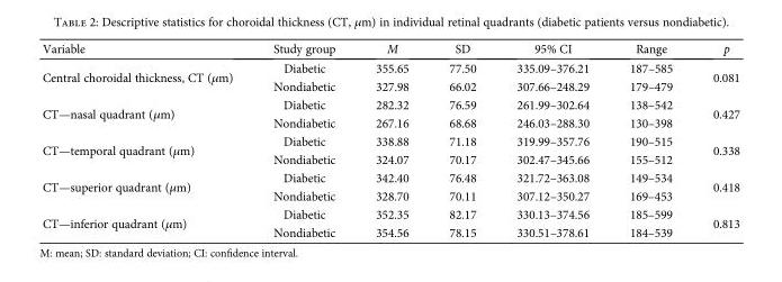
<table><thead><tr><td>Variable</td><td>Study group</td><td>M</td><td>SD</td><td>95% CI</td><td>Range</td><td>p</td></tr></thead><tbody><tr><td rowspan="2">Central choroidal thickness, CT (μm)</td><td>Diabetic</td><td>355.65</td><td>77.50</td><td>335.09–376.21</td><td>187–585</td><td rowspan="2">0.081</td></tr><tr><td>Nondiabetic</td><td>327.98</td><td>66.02</td><td>307.66–248.29</td><td>179–479</td></tr><tr><td rowspan="2">CT—nasal quadrant (μm)</td><td>Diabetic</td><td>282.32</td><td>76.59</td><td>261.99–302.64</td><td>138–542</td><td rowspan="2">0.427</td></tr><tr><td>Nondiabetic</td><td>267.16</td><td>68.68</td><td>246.03–288.30</td><td>130–398</td></tr><tr><td rowspan="2">CT—temporal quadrant (μm)</td><td>Diabetic</td><td>338.88</td><td>71.18</td><td>319.99–357.76</td><td>190–515</td><td rowspan="2">0.338</td></tr><tr><td>Nondiabetic</td><td>324.07</td><td>70.17</td><td>302.47–345.66</td><td>155–512</td></tr><tr><td rowspan="2">CT—superior quadrant (μm)</td><td>Diabetic</td><td>342.40</td><td>76.48</td><td>321.72–363.08</td><td>149–534</td><td rowspan="2">0.418</td></tr><tr><td>Nondiabetic</td><td>328.70</td><td>70.11</td><td>307.12–350.27</td><td>169–453</td></tr><tr><td rowspan="2">CT—inferior quadrant (μm)</td><td>Diabetic</td><td>352.35</td><td>82.17</td><td>330.13–374.56</td><td>185–599</td><td rowspan="2">0.813</td></tr><tr><td>Nondiabetic</td><td>354.56</td><td>78.15</td><td>330.51–378.61</td><td>184–539</td></tr></tbody></table>